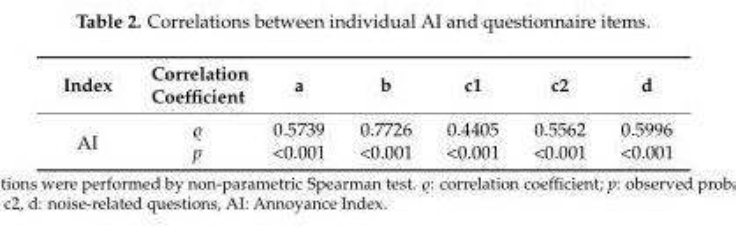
<table><thead><tr><td>Index</td><td>Correlation Coefficient</td><td>a</td><td>b</td><td>c1</td><td>c2</td><td>d</td></tr></thead><tbody><tr><td rowspan="2">AI</td><td>ϱ</td><td>0.5739</td><td>0.7726</td><td>0.4405</td><td>0.5562</td><td>0.5996</td></tr><tr><td>p</td><td>&lt;0.001</td><td>&lt;0.001</td><td>&lt;0.001</td><td>&lt;0.001</td><td>&lt;0.001</td></tr></tbody></table>